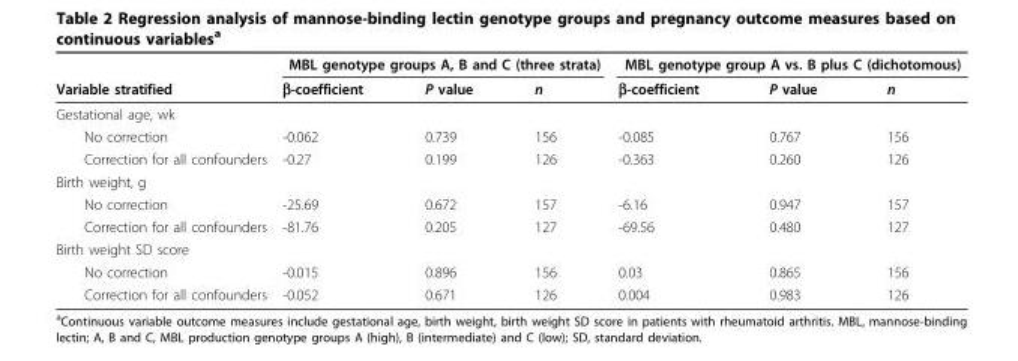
<table><thead><tr><td rowspan="2">Variable stratified</td><td colspan="3">MBL genotype groups A, B and C (three strata)</td><td colspan="3">MBL genotype group A vs. B plus C (dichotomous)</td></tr><tr><td>β-coefficient</td><td>P value</td><td>n</td><td>β-coefficient</td><td>P value</td><td>n</td></tr></thead><tbody><tr><td colspan="7">Gestational age, wk</td></tr><tr><td>No correction</td><td>-0.062</td><td>0.739</td><td>156</td><td>-0.085</td><td>0.767</td><td>156</td></tr><tr><td>Correction for all confounders</td><td>-0.27</td><td>0.199</td><td>126</td><td>-0.363</td><td>0.260</td><td>126</td></tr><tr><td colspan="7">Birth weight, g</td></tr><tr><td>No correction</td><td>-25.69</td><td>0.672</td><td>157</td><td>-6.16</td><td>0.947</td><td>157</td></tr><tr><td>Correction for all confounders</td><td>-81.76</td><td>0.205</td><td>127</td><td>-69.56</td><td>0.480</td><td>127</td></tr><tr><td colspan="7">Birth weight SD score</td></tr><tr><td>No correction</td><td>-0.015</td><td>0.896</td><td>156</td><td>0.03</td><td>0.865</td><td>156</td></tr><tr><td>Correction for all confounders</td><td>-0.052</td><td>0.671</td><td>126</td><td>0.004</td><td>0.983</td><td>126</td></tr></tbody></table>